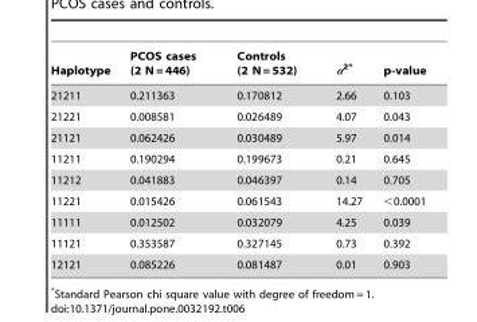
<table><thead><tr><td>Haplotype</td><td>PCOS cases (2 N = 446)</td><td>Controls (2 N = 532)</td><td>α<sup>2</sup>*</td><td>p-value</td></tr></thead><tbody><tr><td>21211</td><td>0.211363</td><td>0.170812</td><td>2.66</td><td>0.103</td></tr><tr><td>21221</td><td>0.008581</td><td>0.026489</td><td>4.07</td><td>0.043</td></tr><tr><td>21121</td><td>0.062426</td><td>0.030489</td><td>5.97</td><td>0.014</td></tr><tr><td>11211</td><td>0.190294</td><td>0.199673</td><td>0.21</td><td>0.645</td></tr><tr><td>11212</td><td>0.041883</td><td>0.046397</td><td>0.14</td><td>0.705</td></tr><tr><td>11221</td><td>0.015426</td><td>0.061543</td><td>14.27</td><td>&lt;0.0001</td></tr><tr><td>11111</td><td>0.012502</td><td>0.032079</td><td>4.25</td><td>0.039</td></tr><tr><td>11121</td><td>0.353587</td><td>0.327145</td><td>0.73</td><td>0.392</td></tr><tr><td>12121</td><td>0.085226</td><td>0.081487</td><td>0.01</td><td>0.903</td></tr></tbody></table>